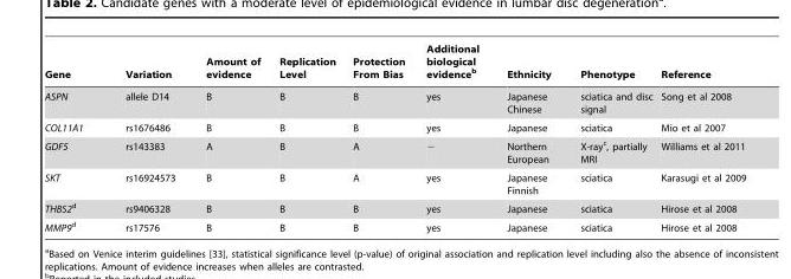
<table><thead><tr><td>Gene</td><td>Variation</td><td>Amount of evidence</td><td>Replication Level</td><td>Protection From Bias</td><td>Additional biological evidence<sup>b</sup></td><td>Ethnicity</td><td>Phenotype</td><td>Reference</td></tr></thead><tbody><tr><td>ASPN</td><td>allele D14</td><td>B</td><td>B</td><td>B</td><td>yes</td><td>Japanese Chinese</td><td>sciatica and disc signal</td><td>Song et al 2008</td></tr><tr><td>COL11A1</td><td>rs1676486</td><td>B</td><td>B</td><td>B</td><td>yes</td><td>Japanese</td><td>sciatica</td><td>Mio et al 2007</td></tr><tr><td>GDF5</td><td>rs143383</td><td>A</td><td>B</td><td>A</td><td>−</td><td>Northern European</td><td>X-ray<sup>c</sup>, partially MRI</td><td>Williams et al 2011</td></tr><tr><td>SKT</td><td>rs16924573</td><td>B</td><td>B</td><td>A</td><td>yes</td><td>Japanese Finnish</td><td>sciatica</td><td>Karasugi et al 2009</td></tr><tr><td>THBS2d</td><td>rs9406328</td><td>B</td><td>B</td><td>B</td><td>yes</td><td>Japanese</td><td>sciatica</td><td>Hirose et al 2008</td></tr><tr><td>MMP9d</td><td>rs17576</td><td>B</td><td>B</td><td>B</td><td>yes</td><td>Japanese</td><td>sciatica</td><td>Hirose et al 2008</td></tr></tbody></table>